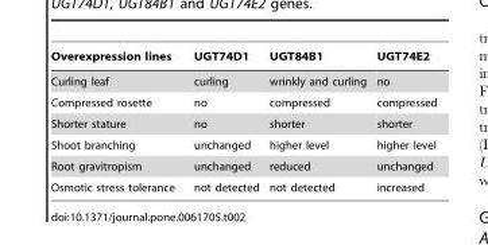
<table><thead><tr><td>Overexpression lines</td><td>UGT74D1</td><td>UGT84B1</td><td>UGT74E2</td></tr></thead><tbody><tr><td>Curling leaf</td><td>curling</td><td>wrinkly and curling</td><td>no</td></tr><tr><td>Compressed rosette</td><td>no</td><td>compressed</td><td>compressed</td></tr><tr><td>Shorter stature</td><td>no</td><td>shorter</td><td>shorter</td></tr><tr><td>Shoot branching</td><td>unchanged</td><td>higher level</td><td>higher level</td></tr><tr><td>Root gravitropism</td><td>unchanged</td><td>reduced</td><td>unchanged</td></tr><tr><td>Osmotic stress tolerance</td><td>not detected</td><td>not detected</td><td>increased</td></tr></tbody></table>